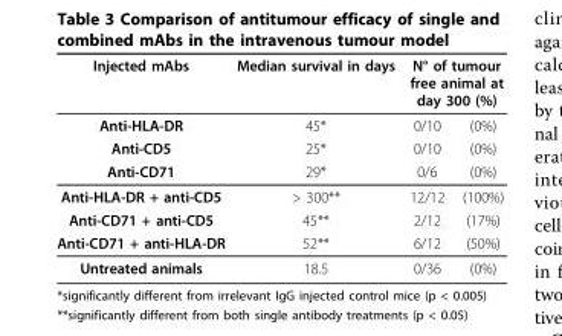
<table><thead><tr><td rowspan="2">Injected mAbs Anti-HLA-DR</td><td rowspan="2">Median survival in days 45*</td><td colspan="2">N° of tumour free animal at day 300 (%)</td></tr><tr><td>0/10</td><td>(0%)</td></tr></thead><tbody><tr><td>Anti-CD5</td><td>25*</td><td>0/10</td><td>(0%)</td></tr><tr><td>Anti-CD71</td><td>29*</td><td>0/6</td><td>(0%)</td></tr><tr><td>Anti-HLA-DR + anti-CD5</td><td>&gt; 300**</td><td>12/12</td><td>(100%)</td></tr><tr><td>Anti-CD71 + anti-CD5</td><td>45**</td><td>2/12</td><td>(17%)</td></tr><tr><td>Anti-CD71 + anti-HLA-DR</td><td>52**</td><td>6/12</td><td>(50%)</td></tr><tr><td>Untreated animals</td><td>18.5</td><td>0/36</td><td>(0%)</td></tr></tbody></table>